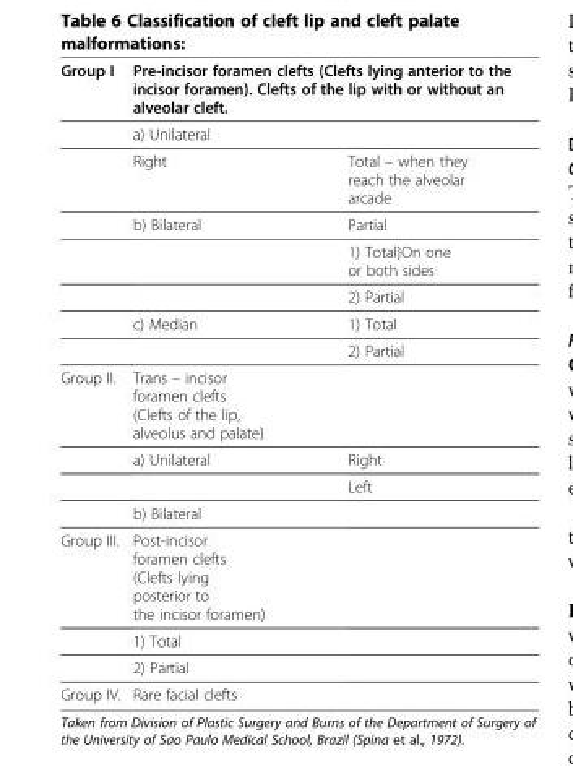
<table><thead><tr><td rowspan="2">Group I</td><td colspan="2">Pre-incisor foramen clefts (Clefts lying anterior to the incisor foramen). Clefts of the lip with or without an alveolar cleft.</td></tr><tr><td>a) Unilateral</td><td></td></tr></thead><tbody><tr><td></td><td>Right</td><td>Total – when they reach the alveolar arcade</td></tr><tr><td></td><td>b) Bilateral</td><td>Partial</td></tr><tr><td></td><td></td><td>1) Total}On one or both sides</td></tr><tr><td></td><td></td><td>2) Partial</td></tr><tr><td></td><td>c) Median</td><td>1) Total</td></tr><tr><td></td><td></td><td>2) Partial</td></tr><tr><td rowspan="4">Group II.</td><td colspan="2">Trans – incisor foramen clefts (Clefts of the lip, alveolus and palate)</td></tr><tr><td>a) Unilateral</td><td>Right</td></tr><tr><td></td><td>Left</td></tr><tr><td>b) Bilateral</td><td></td></tr><tr><td rowspan="3">Group III.</td><td>Post-incisor foramen clefts (Clefts lying posterior to the incisor foramen)</td><td></td></tr><tr><td>1) Total</td><td></td></tr><tr><td>2) Partial</td><td></td></tr><tr><td>Group IV.</td><td>Rare facial clefts</td><td></td></tr></tbody></table>